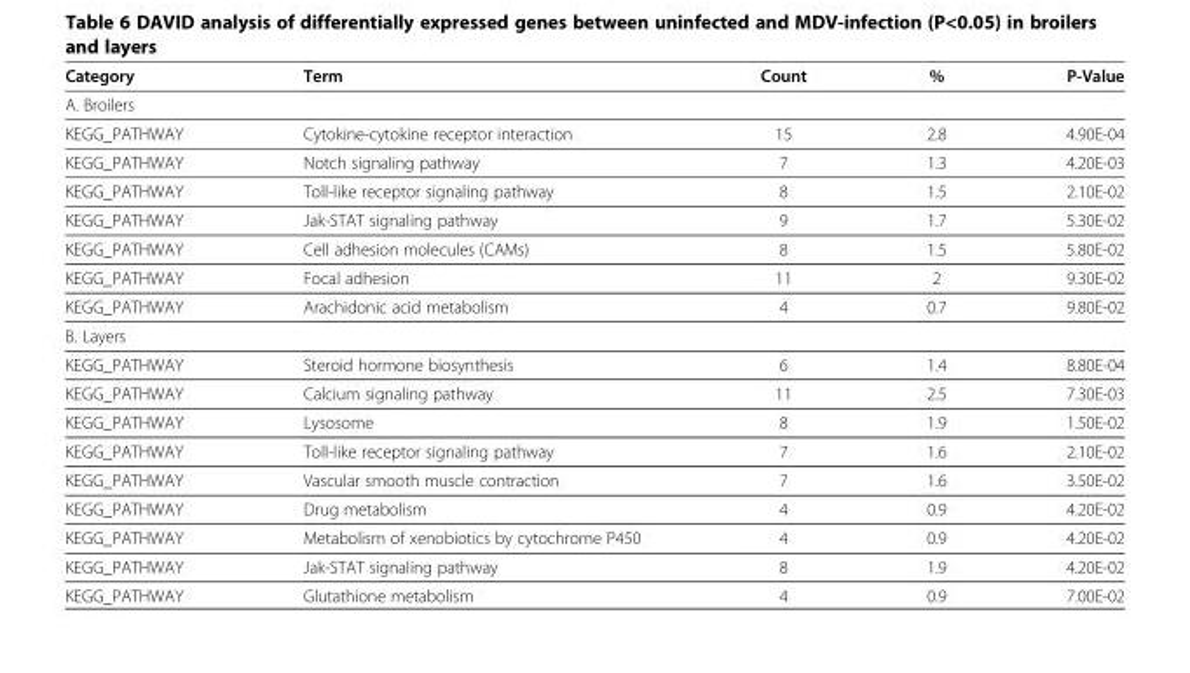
<table><thead><tr><td>Category</td><td>Term</td><td>Count</td><td>%</td><td>P-Value</td></tr></thead><tbody><tr><td colspan="5">A. Broilers</td></tr><tr><td>KEGG_PATHWAY</td><td>Cytokine-cytokine receptor interaction</td><td>15</td><td>2.8</td><td>4.90E-04</td></tr><tr><td>KEGG_PATHWAY</td><td>Notch signaling pathway</td><td>7</td><td>1.3</td><td>4.20E-03</td></tr><tr><td>KEGG_PATHWAY</td><td>Toll-like receptor signaling pathway</td><td>8</td><td>1.5</td><td>2.10E-02</td></tr><tr><td>KEGG_PATHWAY</td><td>Jak-STAT signaling pathway</td><td>9</td><td>1.7</td><td>5.30E-02</td></tr><tr><td>KEGG_PATHWAY</td><td>Cell adhesion molecules (CAMs)</td><td>8</td><td>1.5</td><td>5.80E-02</td></tr><tr><td>KEGG_PATHWAY</td><td>Focal adhesion</td><td>11</td><td>2</td><td>9.30E-02</td></tr><tr><td>KEGG_PATHWAY</td><td>Arachidonic acid metabolism</td><td>4</td><td>0.7</td><td>9.80E-02</td></tr><tr><td colspan="5">B. Layers</td></tr><tr><td>KEGG_PATHWAY</td><td>Steroid hormone biosynthesis</td><td>6</td><td>1.4</td><td>8.80E-04</td></tr><tr><td>KEGG_PATHWAY</td><td>Calcium signaling pathway</td><td>11</td><td>2.5</td><td>7.30E-03</td></tr><tr><td>KEGG_PATHWAY</td><td>Lysosome</td><td>8</td><td>1.9</td><td>1.50E-02</td></tr><tr><td>KEGG_PATHWAY</td><td>Toll-like receptor signaling pathway</td><td>7</td><td>1.6</td><td>2.10E-02</td></tr><tr><td>KEGG_PATHWAY</td><td>Vascular smooth muscle contraction</td><td>7</td><td>1.6</td><td>3.50E-02</td></tr><tr><td>KEGG_PATHWAY</td><td>Drug metabolism</td><td>4</td><td>0.9</td><td>4.20E-02</td></tr><tr><td>KEGG_PATHWAY</td><td>Metabolism of xenobiotics by cytochrome P450</td><td>4</td><td>0.9</td><td>4.20E-02</td></tr><tr><td>KEGG_PATHWAY</td><td>Jak-STAT signaling pathway</td><td>8</td><td>1.9</td><td>4.20E-02</td></tr><tr><td>KEGG_PATHWAY</td><td>Glutathione metabolism</td><td>4</td><td>0.9</td><td>7.00E-02</td></tr></tbody></table>